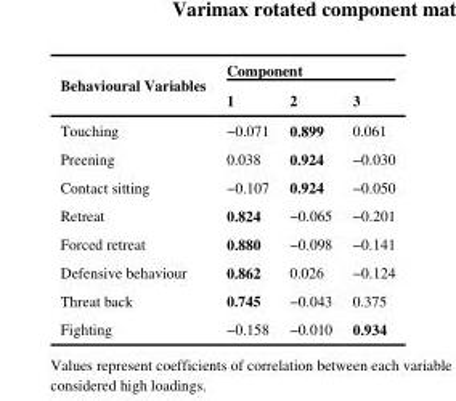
<table><thead><tr><td rowspan="2">Behavioural Variables</td><td colspan="3">Component</td></tr><tr><td>1</td><td>2</td><td>3</td></tr></thead><tbody><tr><td>Touching</td><td>−0.071</td><td>0.899</td><td>0.061</td></tr><tr><td>Preening</td><td>0.038</td><td>0.924</td><td>−0.030</td></tr><tr><td>Contact sitting</td><td>−0.107</td><td>0.924</td><td>−0.050</td></tr><tr><td>Retreat</td><td>0.824</td><td>−0.065</td><td>−0.201</td></tr><tr><td>Forced retreat</td><td>0.880</td><td>−0.098</td><td>−0.141</td></tr><tr><td>Defensive behaviour</td><td>0.862</td><td>0.026</td><td>−0.124</td></tr><tr><td>Threat back</td><td>0.745</td><td>−0.043</td><td>0.375</td></tr><tr><td>Fighting</td><td>−0.158</td><td>−0.010</td><td>0.934</td></tr></tbody></table>